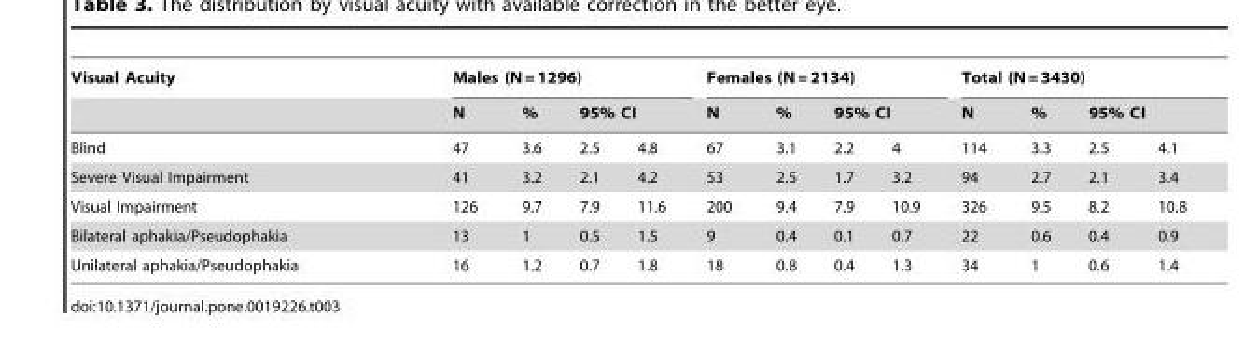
<table><thead><tr><td rowspan="3">Visual Acuity Blind</td><td colspan="4">Males (N = 1296)</td><td colspan="4">Females (N = 2134)</td><td colspan="4">Total (N = 3430)</td></tr><tr><td rowspan="2">N 47</td><td rowspan="2">% 3.6</td><td colspan="2">95% CI</td><td rowspan="2">N 67</td><td rowspan="2">% 3.1</td><td colspan="2">95% CI</td><td rowspan="2">N 114</td><td rowspan="2">% 3.3</td><td colspan="2">95% CI</td></tr><tr><td>2.5</td><td>4.8</td><td>2.2</td><td>4</td><td>2.5</td><td>4.1</td></tr></thead><tbody><tr><td>Severe Visual Impairment</td><td>41</td><td>3.2</td><td>2.1</td><td>4.2</td><td>53</td><td>2.5</td><td>1.7</td><td>3.2</td><td>94</td><td>2.7</td><td>2.1</td><td>3.4</td></tr><tr><td>Visual Impairment</td><td>126</td><td>9.7</td><td>7.9</td><td>11.6</td><td>200</td><td>9.4</td><td>7.9</td><td>10.9</td><td>326</td><td>9.5</td><td>8.2</td><td>10.8</td></tr><tr><td>Bilateral aphakia/Pseudophakia</td><td>13</td><td>1</td><td>0.5</td><td>1.5</td><td>9</td><td>0.4</td><td>0.1</td><td>0.7</td><td>22</td><td>0.6</td><td>0.4</td><td>0.9</td></tr><tr><td>Unilateral aphakia/Pseudophakia</td><td>16</td><td>1.2</td><td>0.7</td><td>1.8</td><td>18</td><td>0.8</td><td>0.4</td><td>1.3</td><td>34</td><td>1</td><td>0.6</td><td>1.4</td></tr></tbody></table>